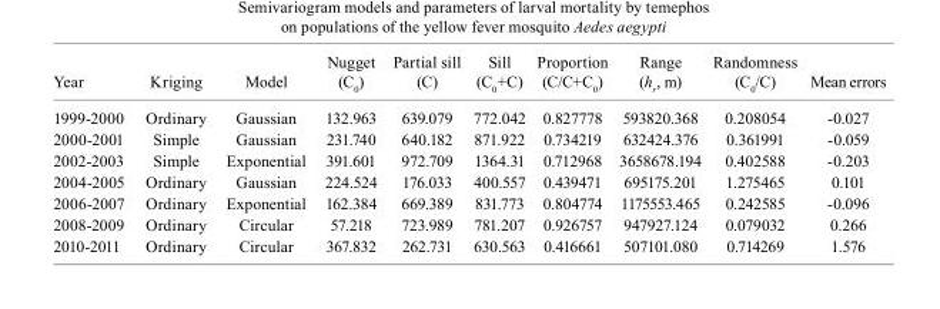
<table><thead><tr><td>Year</td><td>Kriging</td><td>Model</td><td>Nugget (C<sub>0</sub>)</td><td>Partial sill (C)</td><td>Sill (C<sub>0</sub>+C)</td><td>Proportion (C/C+C<sub>0</sub>)</td><td>Range (h<sub>r</sub>, m)</td><td>Randomness (C<sub>0</sub>/C)</td><td>Mean errors</td></tr></thead><tbody><tr><td>1999-2000</td><td>Ordinary</td><td>Gaussian</td><td>132.963</td><td>639.079</td><td>772.042</td><td>0.827778</td><td>593820.368</td><td>0.208054</td><td>-0.027</td></tr><tr><td>2000-2001</td><td>Simple</td><td>Gaussian</td><td>231.740</td><td>640.182</td><td>871.922</td><td>0.734219</td><td>632424.376</td><td>0.361991</td><td>-0.059</td></tr><tr><td>2002-2003</td><td>Simple</td><td>Exponential</td><td>391.601</td><td>972.709</td><td>1364.31</td><td>0.712968</td><td>3658678.194</td><td>0.402588</td><td>-0.203</td></tr><tr><td>2004-2005</td><td>Ordinary</td><td>Gaussian</td><td>224.524</td><td>176.033</td><td>400.557</td><td>0.439471</td><td>695175.201</td><td>1.275465</td><td>0.101</td></tr><tr><td>2006-2007</td><td>Ordinary</td><td>Exponential</td><td>162.384</td><td>669.389</td><td>831.773</td><td>0.804774</td><td>1175553.465</td><td>0.242585</td><td>-0.096</td></tr><tr><td>2008-2009</td><td>Ordinary</td><td>Circular</td><td>57.218</td><td>723.989</td><td>781.207</td><td>0.926757</td><td>947927.124</td><td>0.079032</td><td>0.266</td></tr><tr><td>2010-2011</td><td>Ordinary</td><td>Circular</td><td>367.832</td><td>262.731</td><td>630.563</td><td>0.416661</td><td>507101.080</td><td>0.714269</td><td>1.576</td></tr></tbody></table>